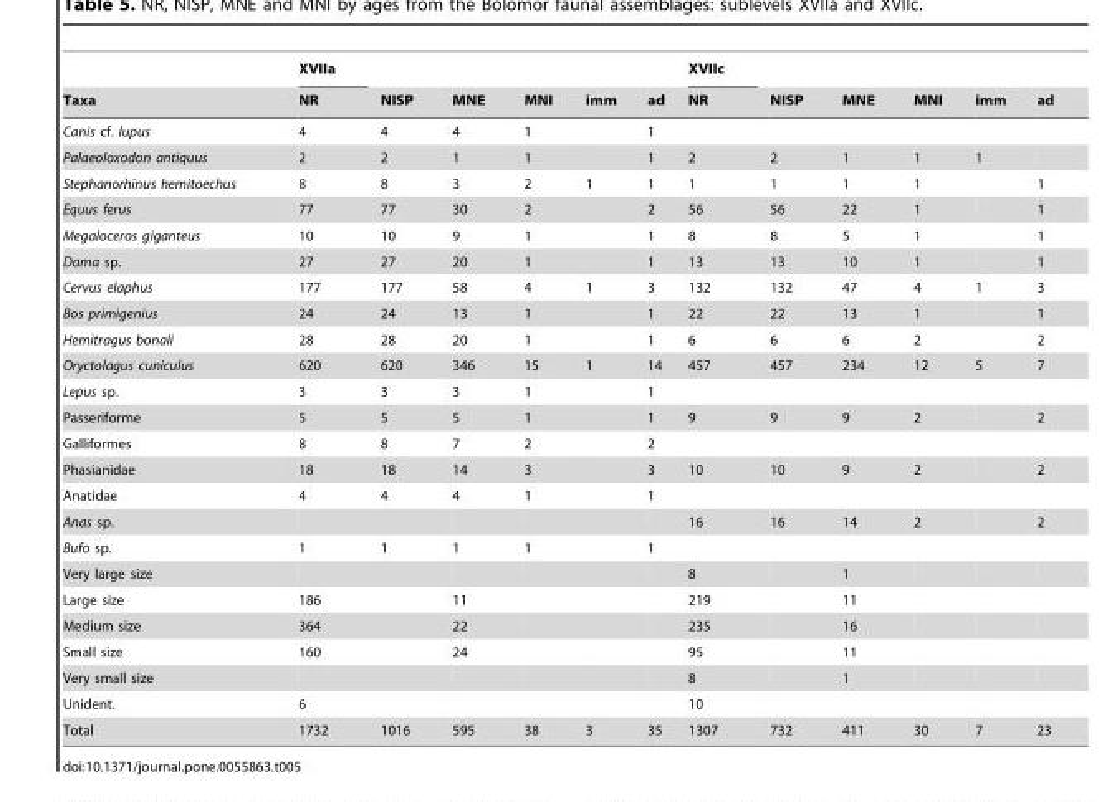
<table><thead><tr><td rowspan="2">Taxa</td><td rowspan="2">XVIIa NR</td><td rowspan="2">NISP</td><td rowspan="2">MNE</td><td rowspan="2">MNI</td><td rowspan="2">imm</td><td rowspan="2">ad</td><td rowspan="2">XVIIc NR</td><td rowspan="2">NISP</td><td rowspan="2">MNE</td><td rowspan="2">MNI</td><td rowspan="2">imm</td><td rowspan="2">ad</td></tr><tr></tr></thead><tbody><tr><td>Canis cf. lupus</td><td>4</td><td>4</td><td>4</td><td>1</td><td></td><td>1</td><td></td><td></td><td></td><td></td><td></td><td></td></tr><tr><td>Palaeoloxodon antiquus</td><td>2</td><td>2</td><td>1</td><td>1</td><td></td><td>1</td><td>2</td><td>2</td><td>1</td><td>1</td><td>1</td><td></td></tr><tr><td>Stephanorhinus hemitoechus</td><td>8</td><td>8</td><td>3</td><td>2</td><td>1</td><td>1</td><td>1</td><td>1</td><td>1</td><td>1</td><td></td><td>1</td></tr><tr><td>Equus ferus</td><td>77</td><td>77</td><td>30</td><td>2</td><td></td><td>2</td><td>56</td><td>56</td><td>22</td><td>1</td><td></td><td>1</td></tr><tr><td>Megaloceros giganteus</td><td>10</td><td>10</td><td>9</td><td>1</td><td></td><td>1</td><td>8</td><td>8</td><td>5</td><td>1</td><td></td><td>1</td></tr><tr><td>Dama sp.</td><td>27</td><td>27</td><td>20</td><td>1</td><td></td><td>1</td><td>13</td><td>13</td><td>10</td><td>1</td><td></td><td>1</td></tr><tr><td>Cervus elaphus</td><td>177</td><td>177</td><td>58</td><td>4</td><td>1</td><td>3</td><td>132</td><td>132</td><td>47</td><td>4</td><td>1</td><td>3</td></tr><tr><td>Bos primigenius</td><td>24</td><td>24</td><td>13</td><td>1</td><td></td><td>1</td><td>22</td><td>22</td><td>13</td><td>1</td><td></td><td>1</td></tr><tr><td>Hemitragus bonali</td><td>28</td><td>28</td><td>20</td><td>1</td><td></td><td>1</td><td>6</td><td>6</td><td>6</td><td>2</td><td></td><td>2</td></tr><tr><td>Oryctolagus cuniculus</td><td>620</td><td>620</td><td>346</td><td>15</td><td>1</td><td>14</td><td>457</td><td>457</td><td>234</td><td>12</td><td>5</td><td>7</td></tr><tr><td>Lepus sp.</td><td>3</td><td>3</td><td>3</td><td>1</td><td></td><td>1</td><td></td><td></td><td></td><td></td><td></td><td></td></tr><tr><td>Passeriforme</td><td>5</td><td>5</td><td>5</td><td>1</td><td></td><td>1</td><td>9</td><td>9</td><td>9</td><td>2</td><td></td><td>2</td></tr><tr><td>Galliformes</td><td>8</td><td>8</td><td>7</td><td>2</td><td></td><td>2</td><td></td><td></td><td></td><td></td><td></td><td></td></tr><tr><td>Phasianidae</td><td>18</td><td>18</td><td>14</td><td>3</td><td></td><td>3</td><td>10</td><td>10</td><td>9</td><td>2</td><td></td><td>2</td></tr><tr><td>Anatidae</td><td>4</td><td>4</td><td>4</td><td>1</td><td></td><td>1</td><td></td><td></td><td></td><td></td><td></td><td></td></tr><tr><td>Anas sp.</td><td></td><td></td><td></td><td></td><td></td><td></td><td>16</td><td>16</td><td>14</td><td>2</td><td></td><td>2</td></tr><tr><td>Bufo sp.</td><td>1</td><td>1</td><td>1</td><td>1</td><td></td><td>1</td><td></td><td></td><td></td><td></td><td></td><td></td></tr><tr><td>Very large size</td><td></td><td></td><td></td><td></td><td></td><td></td><td>8</td><td></td><td>1</td><td></td><td></td><td></td></tr><tr><td>Large size</td><td>186</td><td></td><td>11</td><td></td><td></td><td></td><td>219</td><td></td><td>11</td><td></td><td></td><td></td></tr><tr><td>Medium size</td><td>364</td><td></td><td>22</td><td></td><td></td><td></td><td>235</td><td></td><td>16</td><td></td><td></td><td></td></tr><tr><td>Small size</td><td>160</td><td></td><td>24</td><td></td><td></td><td></td><td>95</td><td></td><td>11</td><td></td><td></td><td></td></tr><tr><td>Very small size</td><td></td><td></td><td></td><td></td><td></td><td></td><td>8</td><td></td><td>1</td><td></td><td></td><td></td></tr><tr><td>Unident.</td><td>6</td><td></td><td></td><td></td><td></td><td></td><td>10</td><td></td><td></td><td></td><td></td><td></td></tr><tr><td>Total</td><td>1732</td><td>1016</td><td>595</td><td>38</td><td>3</td><td>35</td><td>1307</td><td>732</td><td>411</td><td>30</td><td>7</td><td>23</td></tr></tbody></table>